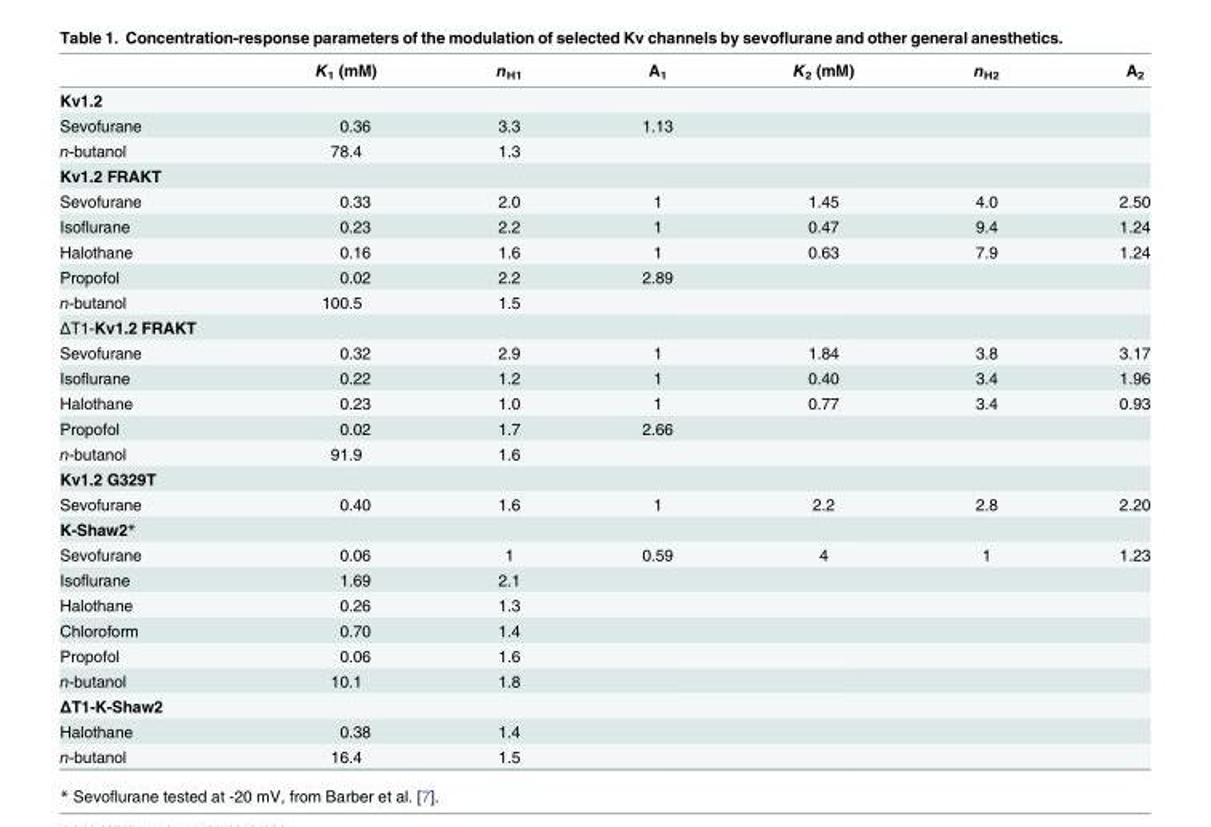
<table><thead><tr><td></td><td>K<sub>1</sub> (mM)</td><td>n<sub>H1</sub></td><td>A<sub>1</sub></td><td>K<sub>2</sub> (mM)</td><td>n<sub>H2</sub></td><td>A<sub>2</sub></td></tr></thead><tbody><tr><td colspan="7">Kv1.2</td></tr><tr><td>Sevofurane</td><td>0.36</td><td>3.3</td><td>1.13</td><td></td><td></td><td></td></tr><tr><td>n-butanol</td><td>78.4</td><td>1.3</td><td></td><td></td><td></td><td></td></tr><tr><td colspan="7">Kv1.2 FRAKT</td></tr><tr><td>Sevofurane</td><td>0.33</td><td>2.0</td><td>1</td><td>1.45</td><td>4.0</td><td>2.50</td></tr><tr><td>Isoflurane</td><td>0.23</td><td>2.2</td><td>1</td><td>0.47</td><td>9.4</td><td>1.24</td></tr><tr><td>Halothane</td><td>0.16</td><td>1.6</td><td>1</td><td>0.63</td><td>7.9</td><td>1.24</td></tr><tr><td>Propofol</td><td>0.02</td><td>2.2</td><td>2.89</td><td></td><td></td><td></td></tr><tr><td>n-butanol</td><td>100.5</td><td>1.5</td><td></td><td></td><td></td><td></td></tr><tr><td colspan="7">ΔT1-Kv1.2 FRAKT</td></tr><tr><td>Sevofurane</td><td>0.32</td><td>2.9</td><td>1</td><td>1.84</td><td>3.8</td><td>3.17</td></tr><tr><td>Isoflurane</td><td>0.22</td><td>1.2</td><td>1</td><td>0.40</td><td>3.4</td><td>1.96</td></tr><tr><td>Halothane</td><td>0.23</td><td>1.0</td><td>1</td><td>0.77</td><td>3.4</td><td>0.93</td></tr><tr><td>Propofol</td><td>0.02</td><td>1.7</td><td>2.66</td><td></td><td></td><td></td></tr><tr><td>n-butanol</td><td>91.9</td><td>1.6</td><td></td><td></td><td></td><td></td></tr><tr><td colspan="7">Kv1.2 G329T</td></tr><tr><td>Sevofurane</td><td>0.40</td><td>1.6</td><td>1</td><td>2.2</td><td>2.8</td><td>2.20</td></tr><tr><td colspan="7">K-Shaw2*</td></tr><tr><td>Sevofurane</td><td>0.06</td><td>1</td><td>0.59</td><td>4</td><td>1</td><td>1.23</td></tr><tr><td>Isoflurane</td><td>1.69</td><td>2.1</td><td></td><td></td><td></td><td></td></tr><tr><td>Halothane</td><td>0.26</td><td>1.3</td><td></td><td></td><td></td><td></td></tr><tr><td>Chloroform</td><td>0.70</td><td>1.4</td><td></td><td></td><td></td><td></td></tr><tr><td>Propofol</td><td>0.06</td><td>1.6</td><td></td><td></td><td></td><td></td></tr><tr><td>n-butanol</td><td>10.1</td><td>1.8</td><td></td><td></td><td></td><td></td></tr><tr><td colspan="7">ΔT1-K-Shaw2</td></tr><tr><td>Halothane</td><td>0.38</td><td>1.4</td><td></td><td></td><td></td><td></td></tr><tr><td>n-butanol</td><td>16.4</td><td>1.5</td><td></td><td></td><td></td><td></td></tr></tbody></table>